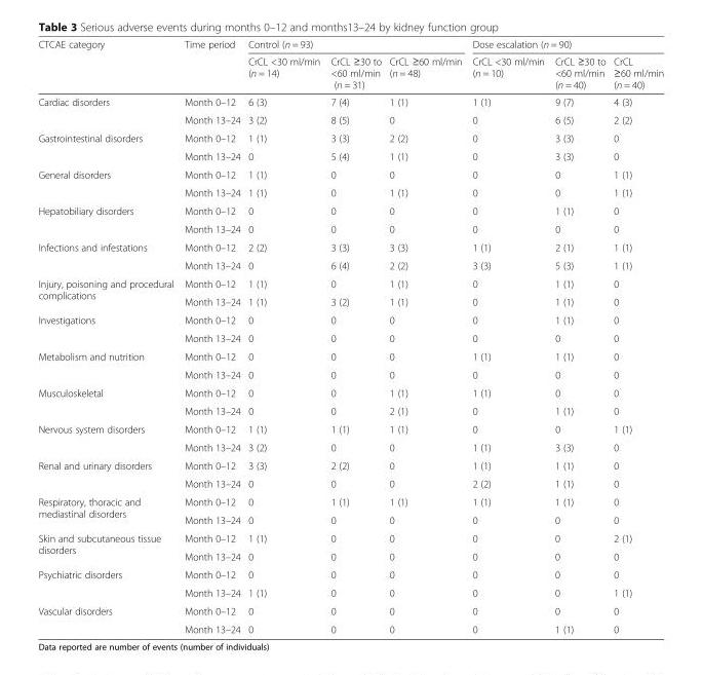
<table><thead><tr><td rowspan="2">CTCAE category</td><td rowspan="2">Time period</td><td colspan="3">Control (n = 93)</td><td colspan="3">Dose escalation (n = 90)</td></tr><tr><td>CrCL &lt;30 ml/min (n = 14)</td><td>CrCL ≥30 to &lt;60 ml/min (n = 31)</td><td>CrCL ≥60 ml/min (n = 48)</td><td>CrCL &lt;30 ml/min (n = 10)</td><td>CrCL ≥30 to &lt;60 ml/min (n = 40)</td><td>CrCL ≥60 ml/min (n = 40)</td></tr></thead><tbody><tr><td rowspan="2">Cardiac disorders</td><td>Month 0–12</td><td>6 (3)</td><td>7 (4)</td><td>1 (1)</td><td>1 (1)</td><td>9 (7)</td><td>4 (3)</td></tr><tr><td>Month 13–24</td><td>3 (2)</td><td>8 (5)</td><td>0</td><td>0</td><td>6 (5)</td><td>2 (2)</td></tr><tr><td rowspan="2">Gastrointestinal disorders</td><td>Month 0–12</td><td>1 (1)</td><td>3 (3)</td><td>2 (2)</td><td>0</td><td>3 (3)</td><td>0</td></tr><tr><td>Month 13–24</td><td>0</td><td>5 (4)</td><td>1 (1)</td><td>0</td><td>3 (3)</td><td>0</td></tr><tr><td rowspan="2">General disorders</td><td>Month 0–12</td><td>1 (1)</td><td>0</td><td>0</td><td>0</td><td>0</td><td>1 (1)</td></tr><tr><td>Month 13–24</td><td>1 (1)</td><td>0</td><td>1 (1)</td><td>0</td><td>0</td><td>1 (1)</td></tr><tr><td rowspan="2">Hepatobiliary disorders</td><td>Month 0–12</td><td>0</td><td>0</td><td>0</td><td>0</td><td>1 (1)</td><td>0</td></tr><tr><td>Month 13–24</td><td>0</td><td>0</td><td>0</td><td>0</td><td>0</td><td>0</td></tr><tr><td rowspan="2">Infections and infestations</td><td>Month 0–12</td><td>2 (2)</td><td>3 (3)</td><td>3 (3)</td><td>1 (1)</td><td>2 (1)</td><td>1 (1)</td></tr><tr><td>Month 13–24</td><td>0</td><td>6 (4)</td><td>2 (2)</td><td>3 (3)</td><td>5 (3)</td><td>1 (1)</td></tr><tr><td rowspan="2">Injury, poisoning and procedural complications</td><td>Month 0–12</td><td>1 (1)</td><td>0</td><td>1 (1)</td><td>0</td><td>1 (1)</td><td>0</td></tr><tr><td>Month 13–24</td><td>1 (1)</td><td>3 (2)</td><td>1 (1)</td><td>0</td><td>1 (1)</td><td>0</td></tr><tr><td rowspan="2">Investigations</td><td>Month 0–12</td><td>0</td><td>0</td><td>0</td><td>0</td><td>1 (1)</td><td>0</td></tr><tr><td>Month 13–24</td><td>0</td><td>0</td><td>0</td><td>0</td><td>0</td><td>0</td></tr><tr><td rowspan="2">Metabolism and nutrition</td><td>Month 0–12</td><td>0</td><td>0</td><td>0</td><td>1 (1)</td><td>1 (1)</td><td>0</td></tr><tr><td>Month 13–24</td><td>0</td><td>0</td><td>0</td><td>0</td><td>0</td><td>0</td></tr><tr><td rowspan="2">Musculoskeletal</td><td>Month 0–12</td><td>0</td><td>0</td><td>1 (1)</td><td>1 (1)</td><td>0</td><td>0</td></tr><tr><td>Month 13–24</td><td>0</td><td>0</td><td>2 (1)</td><td>0</td><td>1 (1)</td><td>0</td></tr><tr><td rowspan="2">Nervous system disorders</td><td>Month 0–12</td><td>1 (1)</td><td>1 (1)</td><td>1 (1)</td><td>0</td><td>0</td><td>1 (1)</td></tr><tr><td>Month 13–24</td><td>3 (2)</td><td>0</td><td>0</td><td>1 (1)</td><td>3 (3)</td><td>0</td></tr><tr><td rowspan="2">Renal and urinary disorders</td><td>Month 0–12</td><td>3 (3)</td><td>2 (2)</td><td>0</td><td>1 (1)</td><td>1 (1)</td><td>0</td></tr><tr><td>Month 13–24</td><td>0</td><td>0</td><td>0</td><td>2 (2)</td><td>1 (1)</td><td>0</td></tr><tr><td rowspan="2">Respiratory, thoracic and mediastinal disorders</td><td>Month 0–12</td><td>0</td><td>1 (1)</td><td>1 (1)</td><td>1 (1)</td><td>1 (1)</td><td>0</td></tr><tr><td>Month 13–24</td><td>0</td><td>0</td><td>0</td><td>0</td><td>0</td><td>0</td></tr><tr><td rowspan="2">Skin and subcutaneous tissue disorders</td><td>Month 0–12</td><td>1 (1)</td><td>0</td><td>0</td><td>0</td><td>0</td><td>2 (1)</td></tr><tr><td>Month 13–24</td><td>0</td><td>0</td><td>0</td><td>0</td><td>0</td><td>0</td></tr><tr><td rowspan="2">Psychiatric disorders</td><td>Month 0–12</td><td>0</td><td>0</td><td>0</td><td>0</td><td>0</td><td>0</td></tr><tr><td>Month 13–24</td><td>1 (1)</td><td>0</td><td>0</td><td>0</td><td>0</td><td>1 (1)</td></tr><tr><td rowspan="2">Vascular disorders</td><td>Month 0–12</td><td>0</td><td>0</td><td>0</td><td>0</td><td>0</td><td>0</td></tr><tr><td>Month 13–24</td><td>0</td><td>0</td><td>0</td><td>0</td><td>1 (1)</td><td>0</td></tr></tbody></table>